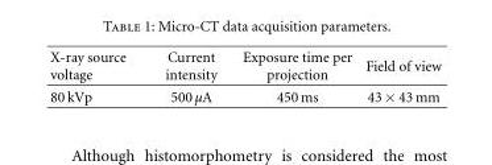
<table><thead><tr><td>X-ray source voltage</td><td>Current intensity</td><td>Exposure time per projection</td><td>Field of view</td></tr></thead><tbody><tr><td>80 kVp</td><td>500 μA</td><td>450 ms</td><td>43 × 43 mm</td></tr></tbody></table>